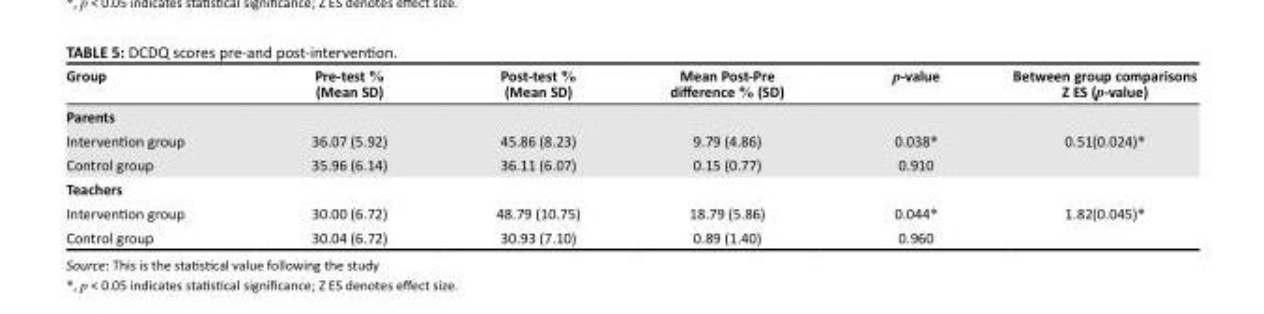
<table><thead><tr><td>Group</td><td>Pre-test % (Mean SD)</td><td>Post-test % (Mean SD)</td><td>Mean Post-Pre difference % (SD)</td><td>p-value</td><td>Between group comparisons Z ES (p-value)</td></tr></thead><tbody><tr><td colspan="6">Parents</td></tr><tr><td>Intervention group</td><td>36.07 (5.92)</td><td>45.86 (8.23)</td><td>9.79 (4.86)</td><td>0.038*</td><td>0.51(0.024)*</td></tr><tr><td>Control group</td><td>35.96 (6.14)</td><td>36.11 (6.07)</td><td>0.15 (0.77)</td><td>0.910</td><td></td></tr><tr><td colspan="6">Teachers</td></tr><tr><td>Intervention group</td><td>30.00 (6.72)</td><td>48.79 (10.75)</td><td>18.79 (5.86)</td><td>0.044*</td><td>1.82(0.045)*</td></tr><tr><td>Control group</td><td>30.04 (6.72)</td><td>30.93 (7.10)</td><td>0.89 (1.40)</td><td>0.960</td><td></td></tr></tbody></table>